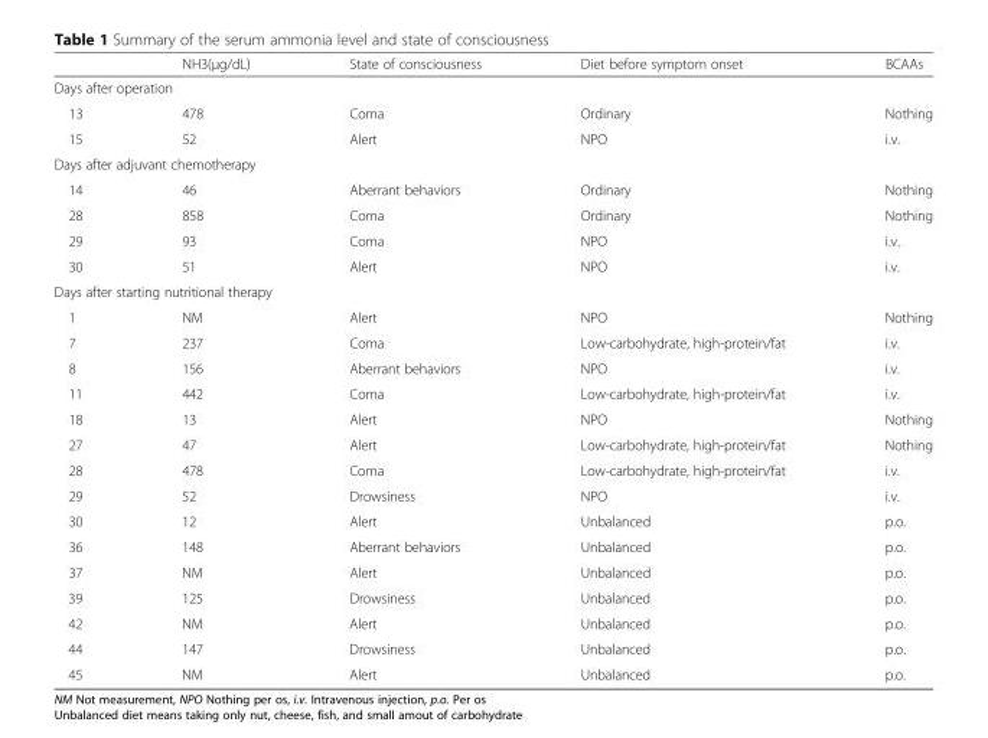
<table><thead><tr><td></td><td>NH3(μg/dL)</td><td>State of consciousness</td><td>Diet before symptom onset</td><td>BCAAs</td></tr></thead><tbody><tr><td colspan="5">Days after operation</td></tr><tr><td>13</td><td>478</td><td>Coma</td><td>Ordinary</td><td>Nothing</td></tr><tr><td>15</td><td>52</td><td>Alert</td><td>NPO</td><td>i.v.</td></tr><tr><td colspan="5">Days after adjuvant chemotherapy</td></tr><tr><td>14</td><td>46</td><td>Aberrant behaviors</td><td>Ordinary</td><td>Nothing</td></tr><tr><td>28</td><td>858</td><td>Coma</td><td>Ordinary</td><td>Nothing</td></tr><tr><td>29</td><td>93</td><td>Coma</td><td>NPO</td><td>i.v.</td></tr><tr><td>30</td><td>51</td><td>Alert</td><td>NPO</td><td>i.v.</td></tr><tr><td colspan="5">Days after starting nutritional therapy</td></tr><tr><td>1</td><td>NM</td><td>Alert</td><td>NPO</td><td>Nothing</td></tr><tr><td>7</td><td>237</td><td>Coma</td><td>Low-carbohydrate, high-protein/fat</td><td>i.v.</td></tr><tr><td>8</td><td>156</td><td>Aberrant behaviors</td><td>NPO</td><td>i.v.</td></tr><tr><td>11</td><td>442</td><td>Coma</td><td>Low-carbohydrate, high-protein/fat</td><td>i.v.</td></tr><tr><td>18</td><td>13</td><td>Alert</td><td>NPO</td><td>Nothing</td></tr><tr><td>27</td><td>47</td><td>Alert</td><td>Low-carbohydrate, high-protein/fat</td><td>Nothing</td></tr><tr><td>28</td><td>478</td><td>Coma</td><td>Low-carbohydrate, high-protein/fat</td><td>i.v.</td></tr><tr><td>29</td><td>52</td><td>Drowsiness</td><td>NPO</td><td>i.v.</td></tr><tr><td>30</td><td>12</td><td>Alert</td><td>Unbalanced</td><td>p.o.</td></tr><tr><td>36</td><td>148</td><td>Aberrant behaviors</td><td>Unbalanced</td><td>p.o.</td></tr><tr><td>37</td><td>NM</td><td>Alert</td><td>Unbalanced</td><td>p.o.</td></tr><tr><td>39</td><td>125</td><td>Drowsiness</td><td>Unbalanced</td><td>p.o.</td></tr><tr><td>42</td><td>NM</td><td>Alert</td><td>Unbalanced</td><td>p.o.</td></tr><tr><td>44</td><td>147</td><td>Drowsiness</td><td>Unbalanced</td><td>p.o.</td></tr><tr><td>45</td><td>NM</td><td>Alert</td><td>Unbalanced</td><td>p.o.</td></tr></tbody></table>